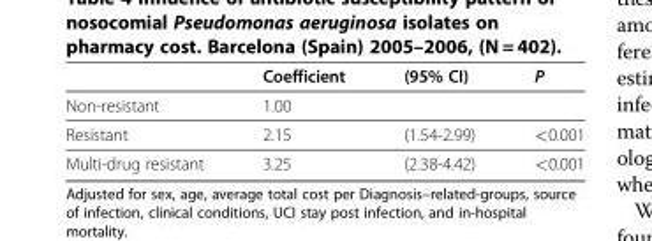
<table><thead><tr><td></td><td>Coefficient</td><td>(95% CI)</td><td>P</td></tr></thead><tbody><tr><td>Non-resistant</td><td>1.00</td><td></td><td></td></tr><tr><td>Resistant</td><td>2.15</td><td>(1.54-2.99)</td><td>&lt;0.001</td></tr><tr><td>Multi-drug resistant</td><td>3.25</td><td>(2.38-4.42)</td><td>&lt;0.001</td></tr></tbody></table>